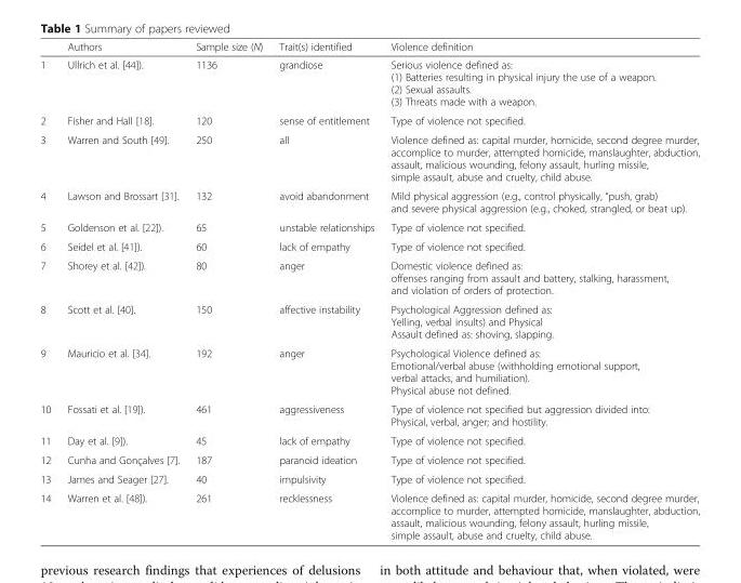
<table><thead><tr><td></td><td>Authors</td><td>Sample size (N)</td><td>Trait(s) identified</td><td>Violence definition</td></tr></thead><tbody><tr><td>1</td><td>Ullrich et al. [44]).</td><td>1136</td><td>grandiose</td><td>Serious violence defined as: (1) Batteries resulting in physical injury the use of a weapon. (2) Sexual assaults. (3) Threats made with a weapon.</td></tr><tr><td>2</td><td>Fisher and Hall [18].</td><td>120</td><td>sense of entitlement</td><td>Type of violence not specified.</td></tr><tr><td>3</td><td>Warren and South [49].</td><td>250</td><td>all</td><td>Violence defined as: capital murder, homicide, second degree murder, accomplice to murder, attempted homicide, manslaughter, abduction, assault, malicious wounding, felony assault, hurling missile, simple assault, abuse and cruelty, child abuse.</td></tr><tr><td>4</td><td>Lawson and Brossart [31].</td><td>132</td><td>avoid abandonment</td><td>Mild physical aggression (e.g., control physically, “push, grab) and severe physical aggression (e.g., choked, strangled, or beat up).</td></tr><tr><td>5</td><td>Goldenson et al. [22]).</td><td>65</td><td>unstable relationships</td><td>Type of violence not specified.</td></tr><tr><td>6</td><td>Seidel et al. [41]).</td><td>60</td><td>lack of empathy</td><td>Type of violence not specified.</td></tr><tr><td>7</td><td>Shorey et al. [42]).</td><td>80</td><td>anger</td><td>Domestic violence defined as: offenses ranging from assault and battery, stalking, harassment, and violation of orders of protection.</td></tr><tr><td>8</td><td>Scott et al. [40].</td><td>150</td><td>affective instability</td><td>Psychological Aggression defined as: Yelling, verbal insults) and Physical Assault defined as: shoving, slapping.</td></tr><tr><td>9</td><td>Mauricio et al. [34].</td><td>192</td><td>anger</td><td>Psychological Violence defined as: Emotional/verbal abuse (withholding emotional support, verbal attacks, and humiliation). Physical abuse not defined.</td></tr><tr><td>10</td><td>Fossati et al. [19]).</td><td>461</td><td>aggressiveness</td><td>Type of violence not specified but aggression divided into: Physical, verbal, anger; and hostility.</td></tr><tr><td>11</td><td>Day et al. [9]).</td><td>45</td><td>lack of empathy</td><td>Type of violence not specified.</td></tr><tr><td>12</td><td>Cunha and Gonçalves [7].</td><td>187</td><td>paranoid ideation</td><td>Type of violence not specified.</td></tr><tr><td>13</td><td>James and Seager [27].</td><td>40</td><td>impulsivity</td><td>Type of violence not specified.</td></tr><tr><td>14</td><td>Warren et al. [48]).</td><td>261</td><td>recklessness</td><td>Violence defined as: capital murder, homicide, second degree murder, accomplice to murder, attempted homicide, manslaughter, abduction, assault, malicious wounding, felony assault, hurling missile, simple assault, abuse and cruelty, child abuse.</td></tr></tbody></table>